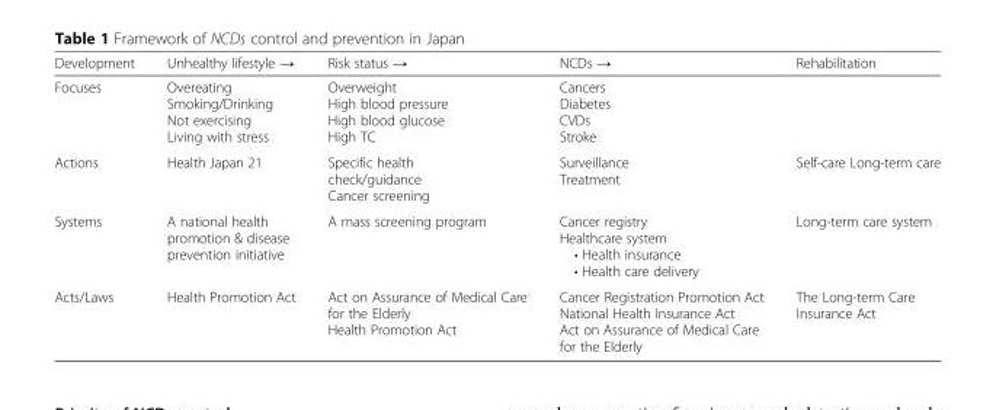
<table><thead><tr><td>Development</td><td>Unhealthy lifestyle →</td><td>Risk status →</td><td>NCDs →</td><td>Rehabilitation</td></tr></thead><tbody><tr><td>Focuses</td><td>Overeating Smoking/Drinking Not exercising Living with stress</td><td>Overweight High blood pressure High blood glucose High TC</td><td>Cancers Diabetes CVDs Stroke</td><td></td></tr><tr><td>Actions</td><td>Health Japan 21</td><td>Specific health check/guidance Cancer screening</td><td>Surveillance Treatment</td><td>Self-care Long-term care</td></tr><tr><td>Systems</td><td>A national health promotion &amp; disease prevention initiative</td><td>A mass screening program</td><td>Cancer registry Healthcare system • Health insurance • Health care delivery</td><td>Long-term care system</td></tr><tr><td>Acts/Laws</td><td>Health Promotion Act</td><td>Act on Assurance of Medical Care for the Elderly Health Promotion Act</td><td>Cancer Registration Promotion Act National Health Insurance Act Act on Assurance of Medical Care for the Elderly</td><td>The Long-term Care Insurance Act</td></tr></tbody></table>